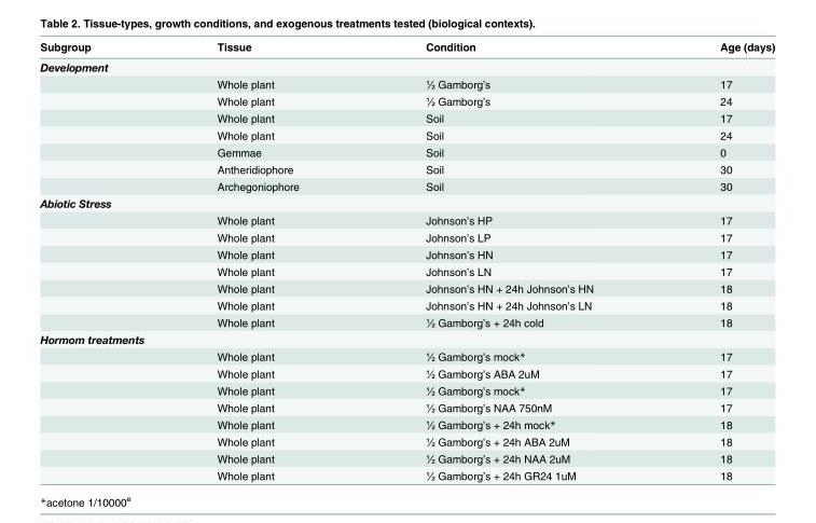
<table><thead><tr><td>Subgroup</td><td>Tissue</td><td>Condition</td><td>Age (days)</td></tr></thead><tbody><tr><td colspan="4">Development</td></tr><tr><td></td><td>Whole plant</td><td>½ Gamborg’s</td><td>17</td></tr><tr><td></td><td>Whole plant</td><td>½ Gamborg’s</td><td>24</td></tr><tr><td></td><td>Whole plant</td><td>Soil</td><td>17</td></tr><tr><td></td><td>Whole plant</td><td>Soil</td><td>24</td></tr><tr><td></td><td>Gemmae</td><td>Soil</td><td>0</td></tr><tr><td></td><td>Antheridiophore</td><td>Soil</td><td>30</td></tr><tr><td></td><td>Archegoniophore</td><td>Soil</td><td>30</td></tr><tr><td colspan="4">Abiotic Stress</td></tr><tr><td></td><td>Whole plant</td><td>Johnson’s HP</td><td>17</td></tr><tr><td></td><td>Whole plant</td><td>Johnson’s LP</td><td>17</td></tr><tr><td></td><td>Whole plant</td><td>Johnson’s HN</td><td>17</td></tr><tr><td></td><td>Whole plant</td><td>Johnson’s LN</td><td>17</td></tr><tr><td></td><td>Whole plant</td><td>Johnson’s HN + 24h Johnson’s HN</td><td>18</td></tr><tr><td></td><td>Whole plant</td><td>Johnson’s HN + 24h Johnson’s LN</td><td>18</td></tr><tr><td></td><td>Whole plant</td><td>½ Gamborg’s + 24h cold</td><td>18</td></tr><tr><td colspan="4">Hormom treatments</td></tr><tr><td></td><td>Whole plant</td><td>½ Gamborg’s mock*</td><td>17</td></tr><tr><td></td><td>Whole plant</td><td>½ Gamborg’s ABA 2uM</td><td>17</td></tr><tr><td></td><td>Whole plant</td><td>½ Gamborg’s mock*</td><td>17</td></tr><tr><td></td><td>Whole plant</td><td>½ Gamborg’s NAA 750nM</td><td>17</td></tr><tr><td></td><td>Whole plant</td><td>½ Gamborg’s + 24h mock*</td><td>18</td></tr><tr><td></td><td>Whole plant</td><td>½ Gamborg’s + 24h ABA 2uM</td><td>18</td></tr><tr><td></td><td>Whole plant</td><td>½ Gamborg’s + 24h NAA 2uM</td><td>18</td></tr><tr><td></td><td>Whole plant</td><td>½ Gamborg’s + 24h GR24 1uM</td><td>18</td></tr></tbody></table>